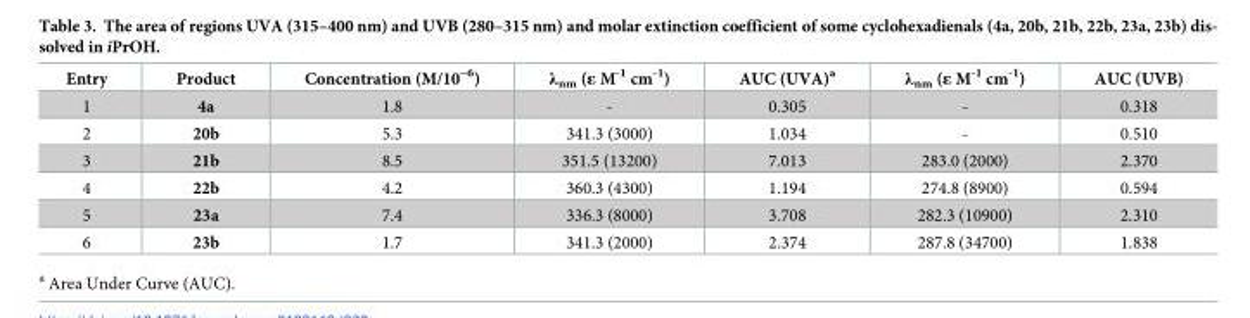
<table><thead><tr><td>Entry</td><td>Product</td><td>Concentration (M/10<sup>−6</sup>)</td><td>λ<sub>nm</sub> (ε M<sup>-1</sup> cm<sup>-1</sup>)</td><td>AUC (UVA)<sup>a</sup></td><td>λ<sub>nm</sub> (ε M<sup>-1</sup> cm<sup>-1</sup>)</td><td>AUC (UVB)</td></tr></thead><tbody><tr><td>1</td><td>4a</td><td>1.8</td><td>-</td><td>0.305</td><td>-</td><td>0.318</td></tr><tr><td>2</td><td>20b</td><td>5.3</td><td>341.3 (3000)</td><td>1.034</td><td>-</td><td>0.510</td></tr><tr><td>3</td><td>21b</td><td>8.5</td><td>351.5 (13200)</td><td>7.013</td><td>283.0 (2000)</td><td>2.370</td></tr><tr><td>4</td><td>22b</td><td>4.2</td><td>360.3 (4300)</td><td>1.194</td><td>274.8 (8900)</td><td>0.594</td></tr><tr><td>5</td><td>23a</td><td>7.4</td><td>336.3 (8000)</td><td>3.708</td><td>282.3 (10900)</td><td>2.310</td></tr><tr><td>6</td><td>23b</td><td>1.7</td><td>341.3 (2000)</td><td>2.374</td><td>287.8 (34700)</td><td>1.838</td></tr></tbody></table>